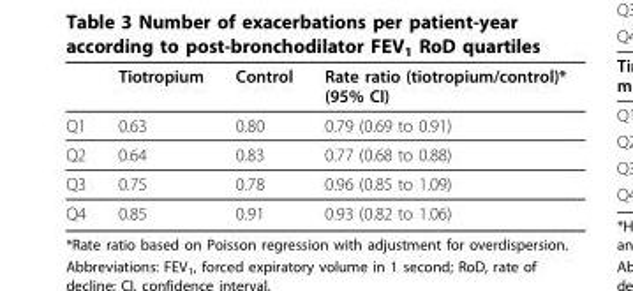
<table><thead><tr><td></td><td>Tiotropium</td><td>Control</td><td>Rate ratio (tiotropium/control)* (95% CI)</td></tr></thead><tbody><tr><td>Q1</td><td>0.63</td><td>0.80</td><td>0.79 (0.69 to 0.91)</td></tr><tr><td>Q2</td><td>0.64</td><td>0.83</td><td>0.77 (0.68 to 0.88)</td></tr><tr><td>Q3</td><td>0.75</td><td>0.78</td><td>0.96 (0.85 to 1.09)</td></tr><tr><td>Q4</td><td>0.85</td><td>0.91</td><td>0.93 (0.82 to 1.06)</td></tr></tbody></table>